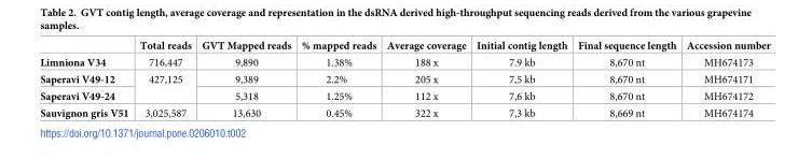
<table><thead><tr><td></td><td>Total reads</td><td>GVT Mapped reads</td><td>% mapped reads</td><td>Average coverage</td><td>Initial contig length</td><td>Final sequence length</td><td>Accession number</td></tr></thead><tbody><tr><td>Limniona V34</td><td>716,447</td><td>9,890</td><td>1.38%</td><td>188 x</td><td>7.9 kb</td><td>8,670 nt</td><td>MH674173</td></tr><tr><td>Saperavi V49-12</td><td rowspan="2">427,125</td><td>9,389</td><td>2.2%</td><td>205 x</td><td>7,5 kb</td><td>8,670 nt</td><td>MH674171</td></tr><tr><td>Saperavi V49-24</td><td>5,318</td><td>1.25%</td><td>112 x</td><td>7,6 kb</td><td>8,670 nt</td><td>MH674172</td></tr><tr><td>Sauvignon gris V51</td><td>3,025,587</td><td>13,630</td><td>0.45%</td><td>322 x</td><td>7,3 kb</td><td>8,669 nt</td><td>MH674174</td></tr></tbody></table>